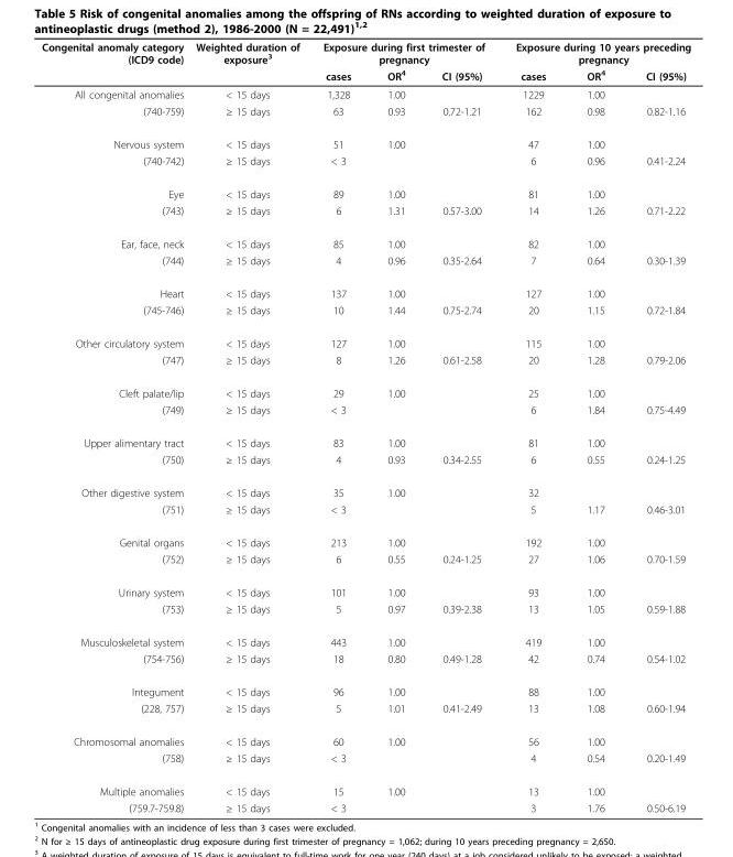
<table><thead><tr><td rowspan="2">Congenital anomaly category (ICD9 code)</td><td rowspan="2">Weighted duration of exposure<sup>3</sup></td><td colspan="3">Exposure during first trimester of pregnancy</td><td colspan="3">Exposure during 10 years preceding pregnancy</td></tr><tr><td>cases</td><td>OR<sup>4</sup></td><td>CI (95%)</td><td>cases</td><td>OR<sup>4</sup></td><td>CI (95%)</td></tr></thead><tbody><tr><td>All congenital anomalies</td><td>&lt; 15 days</td><td>1,328</td><td>1.00</td><td></td><td>1229</td><td>1.00</td><td></td></tr><tr><td>(740-759)</td><td>≥ 15 days</td><td>63</td><td>0.93</td><td>0.72-1.21</td><td>162</td><td>0.98</td><td>0.82-1.16</td></tr><tr><td>Nervous system</td><td>&lt; 15 days</td><td>51</td><td>1.00</td><td></td><td>47</td><td>1.00</td><td></td></tr><tr><td>(740-742)</td><td>≥ 15 days</td><td>&lt; 3</td><td></td><td></td><td>6</td><td>0.96</td><td>0.41-2.24</td></tr><tr><td>Eye</td><td>&lt; 15 days</td><td>89</td><td>1.00</td><td></td><td>81</td><td>1.00</td><td></td></tr><tr><td>(743)</td><td>≥ 15 days</td><td>6</td><td>1.31</td><td>0.57-3.00</td><td>14</td><td>1.26</td><td>0.71-2.22</td></tr><tr><td>Ear, face, neck</td><td>&lt; 15 days</td><td>85</td><td>1.00</td><td></td><td>82</td><td>1.00</td><td></td></tr><tr><td>(744)</td><td>≥ 15 days</td><td>4</td><td>0.96</td><td>0.35-2.64</td><td>7</td><td>0.64</td><td>0.30-1.39</td></tr><tr><td>Heart</td><td>&lt; 15 days</td><td>137</td><td>1.00</td><td></td><td>127</td><td>1.00</td><td></td></tr><tr><td>(745-746)</td><td>≥ 15 days</td><td>10</td><td>1.44</td><td>0.75-2.74</td><td>20</td><td>1.15</td><td>0.72-1.84</td></tr><tr><td>Other circulatory system</td><td>&lt; 15 days</td><td>127</td><td>1.00</td><td></td><td>115</td><td>1.00</td><td></td></tr><tr><td>(747)</td><td>≥ 15 days</td><td>8</td><td>1.26</td><td>0.61-2.58</td><td>20</td><td>1.28</td><td>0.79-2.06</td></tr><tr><td>Cleft palate/lip</td><td>&lt; 15 days</td><td>29</td><td>1.00</td><td></td><td>25</td><td>1.00</td><td></td></tr><tr><td>(749)</td><td>≥ 15 days</td><td>&lt; 3</td><td></td><td></td><td>6</td><td>1.84</td><td>0.75-4.49</td></tr><tr><td>Upper alimentary tract</td><td>&lt; 15 days</td><td>83</td><td>1.00</td><td></td><td>81</td><td>1.00</td><td></td></tr><tr><td>(750)</td><td>≥ 15 days</td><td>4</td><td>0.93</td><td>0.34-2.55</td><td>6</td><td>0.55</td><td>0.24-1.25</td></tr><tr><td>Other digestive system</td><td>&lt; 15 days</td><td>35</td><td>1.00</td><td></td><td>32</td><td></td><td></td></tr><tr><td>(751)</td><td>≥ 15 days</td><td>&lt; 3</td><td></td><td></td><td>5</td><td>1.17</td><td>0.46-3.01</td></tr><tr><td>Genital organs</td><td>&lt; 15 days</td><td>213</td><td>1.00</td><td></td><td>192</td><td>1.00</td><td></td></tr><tr><td>(752)</td><td>≥ 15 days</td><td>6</td><td>0.55</td><td>0.24-1.25</td><td>27</td><td>1.06</td><td>0.70-1.59</td></tr><tr><td>Urinary system</td><td>&lt; 15 days</td><td>101</td><td>1.00</td><td></td><td>93</td><td>1.00</td><td></td></tr><tr><td>(753)</td><td>≥ 15 days</td><td>5</td><td>0.97</td><td>0.39-2.38</td><td>13</td><td>1.05</td><td>0.59-1.88</td></tr><tr><td>Musculoskeletal system</td><td>&lt; 15 days</td><td>443</td><td>1.00</td><td></td><td>419</td><td>1.00</td><td></td></tr><tr><td>(754-756)</td><td>≥ 15 days</td><td>18</td><td>0.80</td><td>0.49-1.28</td><td>42</td><td>0.74</td><td>0.54-1.02</td></tr><tr><td>Integument</td><td>&lt; 15 days</td><td>96</td><td>1.00</td><td></td><td>88</td><td>1.00</td><td></td></tr><tr><td>(228, 757)</td><td>≥ 15 days</td><td>5</td><td>1.01</td><td>0.41-2.49</td><td>13</td><td>1.08</td><td>0.60-1.94</td></tr><tr><td>Chromosomal anomalies</td><td>&lt; 15 days</td><td>60</td><td>1.00</td><td></td><td>56</td><td>1.00</td><td></td></tr><tr><td>(758)</td><td>≥ 15 days</td><td>&lt; 3</td><td></td><td></td><td>4</td><td>0.54</td><td>0.20-1.49</td></tr><tr><td>Multiple anomalies</td><td>&lt; 15 days</td><td>15</td><td>1.00</td><td></td><td>13</td><td>1.00</td><td></td></tr><tr><td>(759.7-759.8)</td><td>≥ 15 days</td><td>&lt; 3</td><td></td><td></td><td>3</td><td>1.76</td><td>0.50-6.19</td></tr></tbody></table>